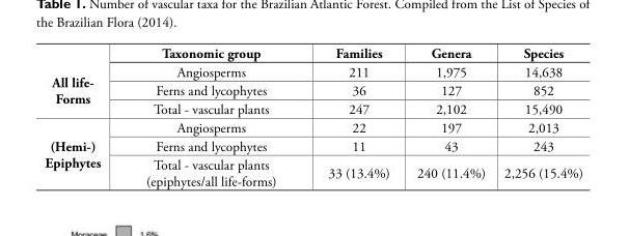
<table><thead><tr><td></td><td>Taxonomic group</td><td>Families</td><td>Genera</td><td>Species</td></tr></thead><tbody><tr><td rowspan="3">All life- Forms</td><td>Angiosperms</td><td>211</td><td>1,975</td><td>14,638</td></tr><tr><td>Ferns and lycophytes</td><td>36</td><td>127</td><td>852</td></tr><tr><td>Total - vascular plants</td><td>247</td><td>2,102</td><td>15,490</td></tr><tr><td rowspan="3">(Hemi-) Epiphytes</td><td>Angiosperms</td><td>22</td><td>197</td><td>2,013</td></tr><tr><td>Ferns and lycophytes</td><td>11</td><td>43</td><td>243</td></tr><tr><td>Total - vascular plants (epiphytes/all life-forms)</td><td>33 (13.4%)</td><td>240 (11.4%)</td><td>2,256 (15.4%)</td></tr></tbody></table>